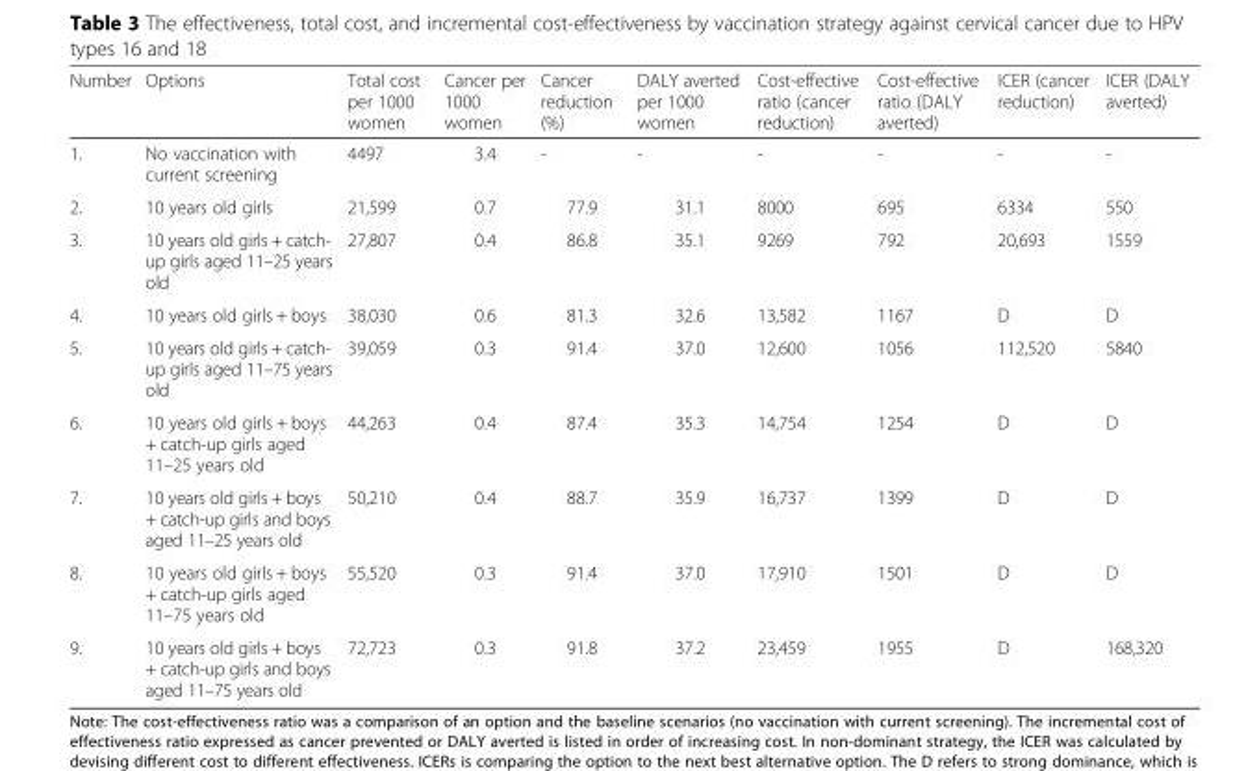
<table><thead><tr><td>Number</td><td>Options</td><td>Total cost per 1000 women</td><td>Cancer per 1000 women</td><td>Cancer reduction (%)</td><td>DALY averted per 1000 women</td><td>Cost-effective ratio (cancer reduction)</td><td>Cost-effective ratio (DALY averted)</td><td>ICER (cancer reduction)</td><td>ICER (DALY averted)</td></tr></thead><tbody><tr><td>1.</td><td>No vaccination with current screening</td><td>4497</td><td>3.4</td><td>-</td><td>-</td><td>-</td><td>-</td><td>-</td><td>-</td></tr><tr><td>2.</td><td>10 years old girls</td><td>21,599</td><td>0.7</td><td>77.9</td><td>31.1</td><td>8000</td><td>695</td><td>6334</td><td>550</td></tr><tr><td>3.</td><td>10 years old girls + catch- up girls aged 11–25 years old</td><td>27,807</td><td>0.4</td><td>86.8</td><td>35.1</td><td>9269</td><td>792</td><td>20,693</td><td>1559</td></tr><tr><td>4.</td><td>10 years old girls + boys</td><td>38,030</td><td>0.6</td><td>81.3</td><td>32.6</td><td>13,582</td><td>1167</td><td>D</td><td>D</td></tr><tr><td>5.</td><td>10 years old girls + catch- up girls aged 11–75 years old</td><td>39,059</td><td>0.3</td><td>91.4</td><td>37.0</td><td>12,600</td><td>1056</td><td>112,520</td><td>5840</td></tr><tr><td>6.</td><td>10 years old girls + boys + catch-up girls aged 11–25 years old</td><td>44,263</td><td>0.4</td><td>87.4</td><td>35.3</td><td>14,754</td><td>1254</td><td>D</td><td>D</td></tr><tr><td>7.</td><td>10 years old girls + boys + catch-up girls and boys aged 11–25 years old</td><td>50,210</td><td>0.4</td><td>88.7</td><td>35.9</td><td>16,737</td><td>1399</td><td>D</td><td>D</td></tr><tr><td>8.</td><td>10 years old girls + boys + catch-up girls aged 11–75 years old</td><td>55,520</td><td>0.3</td><td>91.4</td><td>37.0</td><td>17,910</td><td>1501</td><td>D</td><td>D</td></tr><tr><td>9.</td><td>10 years old girls + boys + catch-up girls and boys aged 11–75 years old</td><td>72,723</td><td>0.3</td><td>91.8</td><td>37.2</td><td>23,459</td><td>1955</td><td>D</td><td>168,320</td></tr></tbody></table>